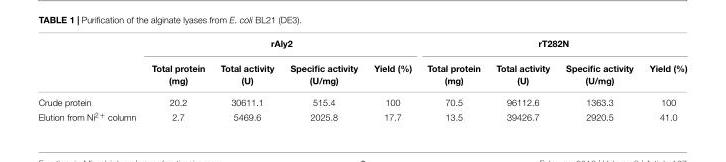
<table><thead><tr><td rowspan="2"></td><td colspan="4">rAly2</td><td colspan="4">rT282N</td></tr><tr><td>Total protein (mg)</td><td>Total activity (U)</td><td>Specific activity (U/mg)</td><td>Yield (%)</td><td>Total protein (mg)</td><td>Total activity (U)</td><td>Specific activity (U/mg)</td><td>Yield (%)</td></tr></thead><tbody><tr><td>Crude protein</td><td>20.2</td><td>30611.1</td><td>515.4</td><td>100</td><td>70.5</td><td>96112.6</td><td>1363.3</td><td>100</td></tr><tr><td>Elution from Ni<sup>2+</sup> column</td><td>2.7</td><td>5469.6</td><td>2025.8</td><td>17.7</td><td>13.5</td><td>39426.7</td><td>2920.5</td><td>41.0</td></tr></tbody></table>